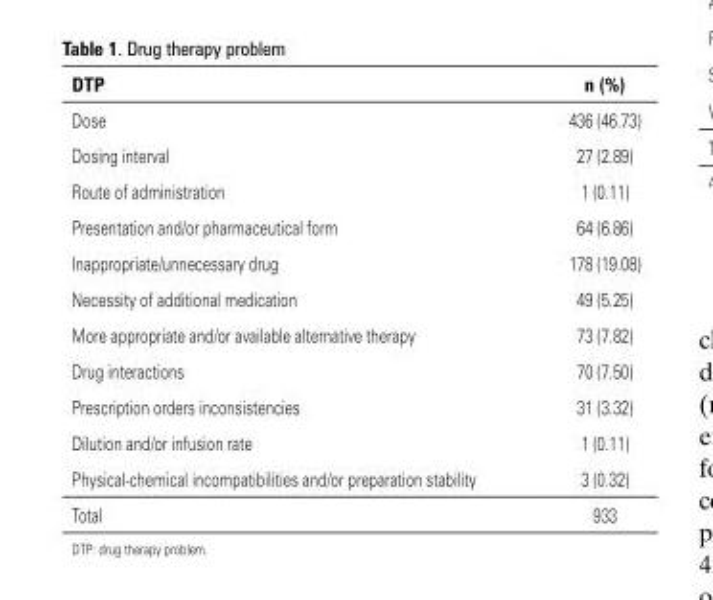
<table><thead><tr><td>DTP</td><td>n (%)</td></tr></thead><tbody><tr><td>Dose</td><td>436 (46.73)</td></tr><tr><td>Dosing interval</td><td>27 (2.89)</td></tr><tr><td>Route of administration</td><td>1 (0.11)</td></tr><tr><td>Presentation and/or pharmaceutical form</td><td>64 (6.86)</td></tr><tr><td>Inappropriate/unnecessary drug</td><td>178 (19.08)</td></tr><tr><td>Necessity of additional medication</td><td>49 (5.25)</td></tr><tr><td>More appropriate and/or available alternative therapy</td><td>73 (7.82)</td></tr><tr><td>Drug interactions</td><td>70 (7.50)</td></tr><tr><td>Prescription orders inconsistencies</td><td>31 (3.32)</td></tr><tr><td>Dilution and/or infusion rate</td><td>1 (0.11)</td></tr><tr><td>Physical-chemical incompatibilities and/or preparation stability</td><td>3 (0.32)</td></tr><tr><td>Total</td><td>933</td></tr></tbody></table>